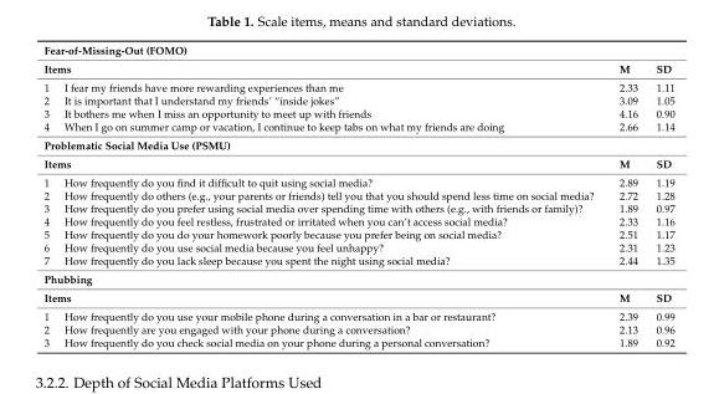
<table><tbody><tr><td colspan="4">Fear-of-Missing-Out (FOMO)</td></tr><tr><td colspan="2">Items</td><td>M</td><td>SD</td></tr><tr><td>1</td><td>I fear my friends have more rewarding experiences than me</td><td>2.33</td><td>1.11</td></tr><tr><td>2</td><td>It is important that I understand my friends’ “inside jokes”</td><td>3.09</td><td>1.05</td></tr><tr><td>3</td><td>It bothers me when I miss an opportunity to meet up with friends</td><td>4.16</td><td>0.90</td></tr><tr><td>4</td><td>When I go on summer camp or vacation, I continue to keep tabs on what my friends are doing</td><td>2.66</td><td>1.14</td></tr><tr><td colspan="4">Problematic Social Media Use (PSMU)</td></tr><tr><td colspan="2">Items</td><td>M</td><td>SD</td></tr><tr><td>1</td><td>How frequently do you find it difficult to quit using social media?</td><td>2.89</td><td>1.19</td></tr><tr><td>2</td><td>How frequently do others (e.g., your parents or friends) tell you that you should spend less time on social media?</td><td>2.72</td><td>1.28</td></tr><tr><td>3</td><td>How frequently do you prefer using social media over spending time with others (e.g., with friends or family)?</td><td>1.89</td><td>0.97</td></tr><tr><td>4</td><td>How frequently do you feel restless, frustrated or irritated when you can’t access social media?</td><td>2.33</td><td>1.16</td></tr><tr><td>5</td><td>How frequently do you do your homework poorly because you prefer being on social media?</td><td>2.51</td><td>1.17</td></tr><tr><td>6</td><td>How frequently do you use social media because you feel unhappy?</td><td>2.31</td><td>1.23</td></tr><tr><td>7</td><td>How frequently do you lack sleep because you spent the night using social media?</td><td>2.44</td><td>1.35</td></tr><tr><td colspan="4">Phubbing</td></tr><tr><td colspan="2">Items</td><td>M</td><td>SD</td></tr><tr><td>1</td><td>How frequently do you use your mobile phone during a conversation in a bar or restaurant?</td><td>2.39</td><td>0.99</td></tr><tr><td>2</td><td>How frequently are you engaged with your phone during a conversation?</td><td>2.13</td><td>0.96</td></tr><tr><td>3</td><td>How frequently do you check social media on your phone during a personal conversation?</td><td>1.89</td><td>0.92</td></tr></tbody></table>